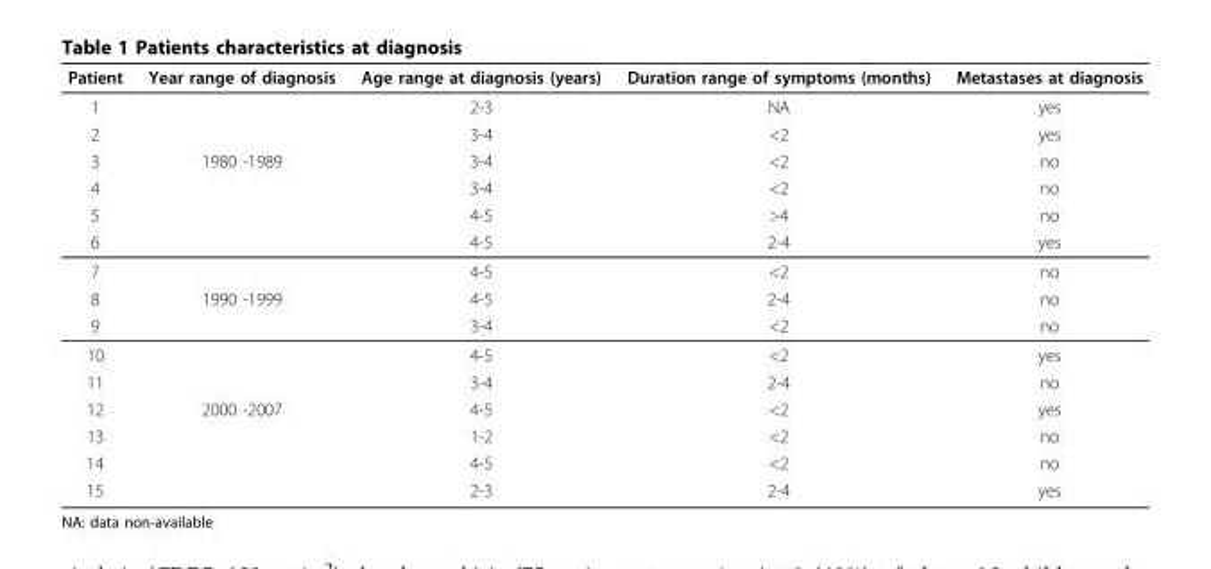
<table><thead><tr><td>Patient</td><td>Year range of diagnosis</td><td>Age range at diagnosis (years)</td><td>Duration range of symptoms (months)</td><td>Metastases at diagnosis</td></tr></thead><tbody><tr><td>1</td><td></td><td>2-3</td><td>NA</td><td>yes</td></tr><tr><td>2</td><td></td><td>3-4</td><td>&lt;2</td><td>yes</td></tr><tr><td>3</td><td>1980 -1989</td><td>3-4</td><td>&lt;2</td><td>no</td></tr><tr><td>4</td><td></td><td>3-4</td><td>&lt;2</td><td>no</td></tr><tr><td>5</td><td></td><td>4-5</td><td>&gt;4</td><td>no</td></tr><tr><td>6</td><td></td><td>4-5</td><td>2-4</td><td>yes</td></tr><tr><td>7</td><td></td><td>4-5</td><td>&lt;2</td><td>no</td></tr><tr><td>8</td><td>1990 -1999</td><td>4-5</td><td>2-4</td><td>no</td></tr><tr><td>9</td><td></td><td>3-4</td><td>&lt;2</td><td>no</td></tr><tr><td>10</td><td></td><td>4-5</td><td>&lt;2</td><td>yes</td></tr><tr><td>11</td><td></td><td>3-4</td><td>2-4</td><td>no</td></tr><tr><td>12</td><td>2000 -2007</td><td>4-5</td><td>&lt;2</td><td>yes</td></tr><tr><td>13</td><td></td><td>1-2</td><td>&lt;2</td><td>no</td></tr><tr><td>14</td><td></td><td>4-5</td><td>&lt;2</td><td>no</td></tr><tr><td>15</td><td></td><td>2-3</td><td>2-4</td><td>yes</td></tr></tbody></table>